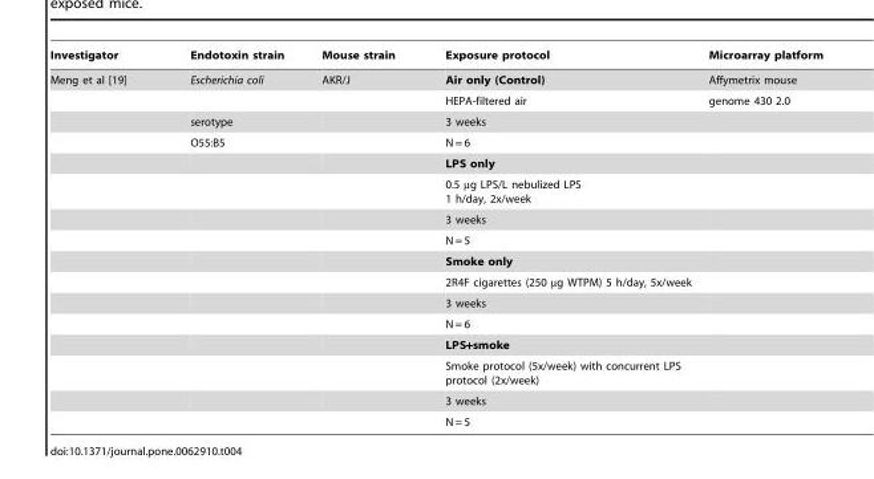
<table><thead><tr><td>Investigator</td><td>Endotoxin strain</td><td>Mouse strain</td><td>Exposure protocol</td><td>Microarray platform</td></tr></thead><tbody><tr><td rowspan="16">Meng et al [19]</td><td>Escherichia coli</td><td>AKR/J</td><td>Air only (Control)</td><td>Affymetrix mouse</td></tr><tr><td></td><td></td><td>HEPA-filtered air</td><td>genome 430 2.0</td></tr><tr><td>serotype</td><td></td><td>3 weeks</td><td></td></tr><tr><td>O55:B5</td><td></td><td>N = 6</td><td></td></tr><tr><td></td><td></td><td>LPS only</td><td></td></tr><tr><td></td><td></td><td>0.5 µg LPS/L nebulized LPS 1 h/day, 2x/week</td><td></td></tr><tr><td></td><td></td><td>3 weeks</td><td></td></tr><tr><td></td><td></td><td>N = 5</td><td></td></tr><tr><td></td><td></td><td>Smoke only</td><td></td></tr><tr><td></td><td></td><td>2R4F cigarettes (250 µg WTPM) 5 h/day, 5x/week</td><td></td></tr><tr><td></td><td></td><td>3 weeks</td><td></td></tr><tr><td></td><td></td><td>N = 6</td><td></td></tr><tr><td></td><td></td><td>LPS+smoke</td><td></td></tr><tr><td></td><td></td><td>Smoke protocol (5x/week) with concurrent LPS protocol (2x/week)</td><td></td></tr><tr><td></td><td></td><td>3 weeks</td><td></td></tr><tr><td></td><td></td><td>N = 5</td><td></td></tr></tbody></table>